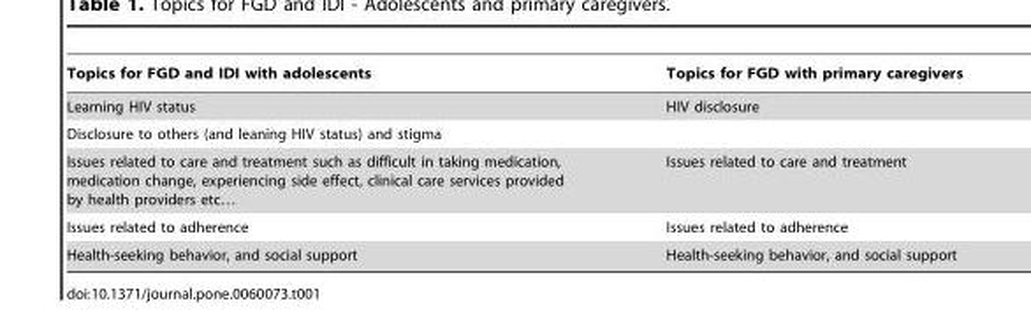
<table><thead><tr><td>Topics for FGD and IDI with adolescents</td><td>Topics for FGD with primary caregivers</td></tr></thead><tbody><tr><td>Learning HIV status</td><td>HIV disclosure</td></tr><tr><td colspan="2">Disclosure to others (and leaning HIV status) and stigma</td></tr><tr><td>Issues related to care and treatment such as difficult in taking medication, medication change, experiencing side effect, clinical care services provided by health providers etc…</td><td>Issues related to care and treatment</td></tr><tr><td>Issues related to adherence</td><td>Issues related to adherence</td></tr><tr><td>Health-seeking behavior, and social support</td><td>Health-seeking behavior, and social support</td></tr></tbody></table>